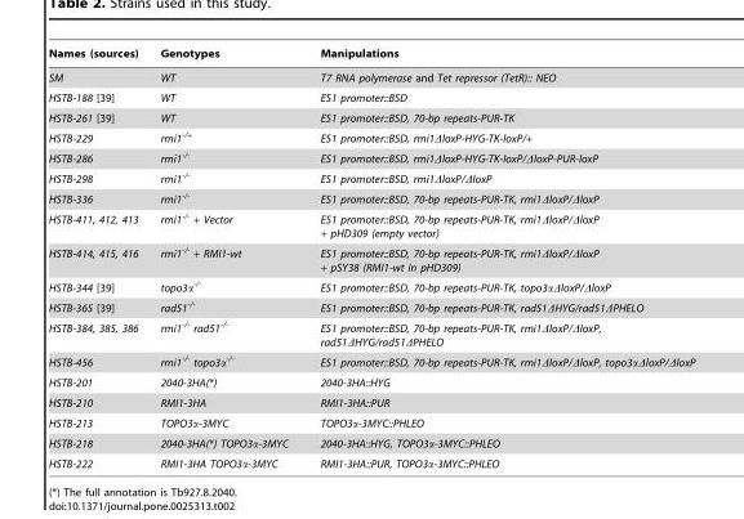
<table><thead><tr><td>Names (sources)</td><td>Genotypes</td><td>Manipulations</td></tr></thead><tbody><tr><td>SM</td><td>WT</td><td>T7 RNA polymerase and Tet repressor (TetR):: NEO</td></tr><tr><td>HSTB-188 [39]</td><td>WT</td><td>ES1 promoter::BSD</td></tr><tr><td>HSTB-261 [39]</td><td>WT</td><td>ES1 promoter::BSD, 70-bp repeats-PUR-TK</td></tr><tr><td>HSTB-229</td><td>rmi1<sup>-/+</sup></td><td>ES1 promoter::BSD, rmi1ΔloxP-HYG-TK-loxP/+</td></tr><tr><td>HSTB-286</td><td>rmi1<sup>-/-</sup></td><td>ES1 promoter::BSD, rmi1ΔloxP-HYG-TK-loxP/ΔloxP-PUR-loxP</td></tr><tr><td>HSTB-298</td><td>rmi1<sup>-/-</sup></td><td>ES1 promoter::BSD, rmi1ΔloxP/ΔloxP</td></tr><tr><td>HSTB-336</td><td>rmi1<sup>-/-</sup></td><td>ES1 promoter::BSD, 70-bp repeats-PUR-TK, rmi1ΔloxP/ΔloxP</td></tr><tr><td>HSTB-411, 412, 413</td><td>rmi1<sup>-/-</sup> + Vector</td><td>ES1 promoter::BSD, 70-bp repeats-PUR-TK, rmi1ΔloxP/ΔloxP + pHD309 (empty vector)</td></tr><tr><td>HSTB-414, 415, 416</td><td>rmi1<sup>-/-</sup> + RMI1-wt</td><td>ES1 promoter::BSD, 70-bp repeats-PUR-TK, rmi1ΔloxP/ΔloxP + pSY38 (RMI1-wt in pHD309)</td></tr><tr><td>HSTB-344 [39]</td><td>topo3α<sup>-/-</sup></td><td>ES1 promoter::BSD, 70-bp repeats-PUR-TK, topo3αΔloxP/ΔloxP</td></tr><tr><td>HSTB-365 [39]</td><td>rad51<sup>-/-</sup></td><td>ES1 promoter::BSD, 70-bp repeats-PUR-TK, rad51ΔHYG/rad51ΔPHELO</td></tr><tr><td>HSTB-384, 385, 386</td><td>rmi1<sup>-/-</sup> rad51<sup>-/-</sup></td><td>ES1 promoter::BSD, 70-bp repeats-PUR-TK, rmi1ΔloxP/ΔloxP, rad51ΔHYG/rad51ΔPHELO</td></tr><tr><td>HSTB-456</td><td>rmi1<sup>-/-</sup> topo3α<sup>-/-</sup></td><td>ES1 promoter::BSD, 70-bp repeats-PUR-TK, rmi1ΔloxP/ΔloxP, topo3αΔloxP/ΔloxP</td></tr><tr><td>HSTB-201</td><td>2040-3HA(*)</td><td>2040-3HA::HYG</td></tr><tr><td>HSTB-210</td><td>RMI1-3HA</td><td>RMI1-3HA::PUR</td></tr><tr><td>HSTB-213</td><td>TOPO3α-3MYC</td><td>TOPO3α-3MYC::PHLEO</td></tr><tr><td>HSTB-218</td><td>2040-3HA(*) TOPO3α-3MYC</td><td>2040-3HA::HYG, TOPO3α-3MYC::PHLEO</td></tr><tr><td>HSTB-222</td><td>RMI1-3HA TOPO3α-3MYC</td><td>RMI1-3HA::PUR, TOPO3α-3MYC::PHLEO</td></tr></tbody></table>